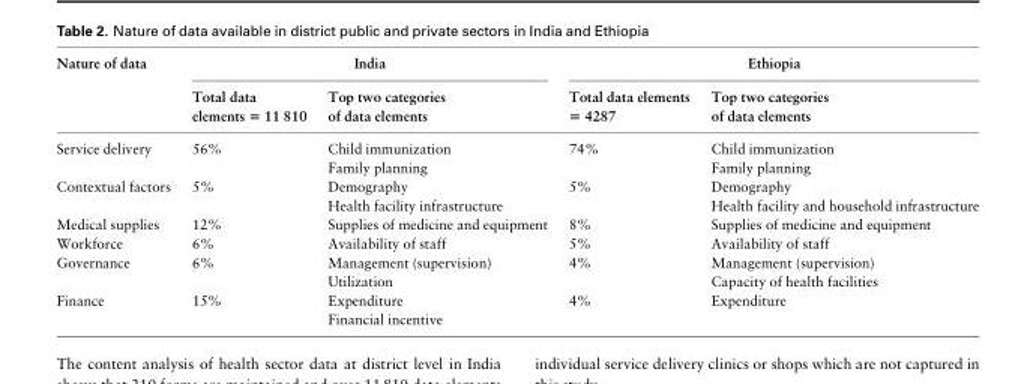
<table><thead><tr><td rowspan="2">Nature of data</td><td colspan="2">India</td><td colspan="2">Ethiopia</td></tr><tr><td>Total data elements = 11 810</td><td>Top two categories of data elements</td><td>Total data elements = 4287</td><td>Top two categories of data elements</td></tr></thead><tbody><tr><td rowspan="2">Service delivery</td><td rowspan="2">56%</td><td>Child immunization</td><td rowspan="2">74%</td><td>Child immunization</td></tr><tr><td>Family planning</td><td>Family planning</td></tr><tr><td rowspan="2">Contextual factors</td><td rowspan="2">5%</td><td>Demography</td><td rowspan="2">5%</td><td>Demography</td></tr><tr><td>Health facility infrastructure</td><td>Health facility and household infrastructure</td></tr><tr><td>Medical supplies</td><td>12%</td><td>Supplies of medicine and equipment</td><td>8%</td><td>Supplies of medicine and equipment</td></tr><tr><td>Workforce</td><td>6%</td><td>Availability of staff</td><td>5%</td><td>Availability of staff</td></tr><tr><td rowspan="2">Governance</td><td rowspan="2">6%</td><td>Management (supervision)</td><td rowspan="2">4%</td><td>Management (supervision)</td></tr><tr><td>Utilization</td><td>Capacity of health facilities</td></tr><tr><td rowspan="2">Finance</td><td rowspan="2">15%</td><td>Expenditure</td><td rowspan="2">4%</td><td rowspan="2">Expenditure</td></tr><tr><td>Financial incentive</td></tr></tbody></table>